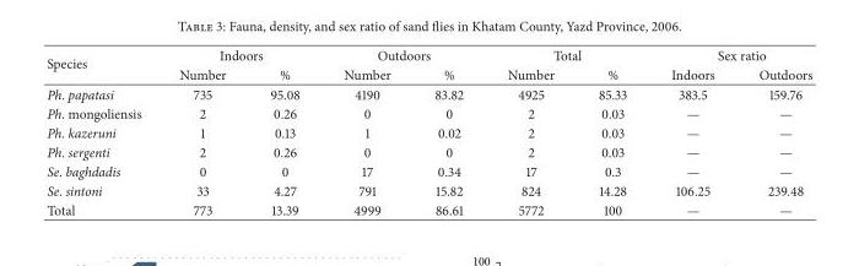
<table><thead><tr><td rowspan="2">Species</td><td colspan="2">Indoors</td><td colspan="2">Outdoors</td><td colspan="2">Total</td><td colspan="2">Sex ratio</td></tr><tr><td>Number</td><td>%</td><td>Number</td><td>%</td><td>Number</td><td>%</td><td>Indoors</td><td>Outdoors</td></tr></thead><tbody><tr><td>Ph. papatasi</td><td>735</td><td>95.08</td><td>4190</td><td>83.82</td><td>4925</td><td>85.33</td><td>383.5</td><td>159.76</td></tr><tr><td>Ph. mongoliensis</td><td>2</td><td>0.26</td><td>0</td><td>0</td><td>2</td><td>0.03</td><td>—</td><td>—</td></tr><tr><td>Ph. kazeruni</td><td>1</td><td>0.13</td><td>1</td><td>0.02</td><td>2</td><td>0.03</td><td>—</td><td>—</td></tr><tr><td>Ph. sergenti</td><td>2</td><td>0.26</td><td>0</td><td>0</td><td>2</td><td>0.03</td><td>—</td><td>—</td></tr><tr><td>Se. baghdadis</td><td>0</td><td>0</td><td>17</td><td>0.34</td><td>17</td><td>0.3</td><td>—</td><td>—</td></tr><tr><td>Se. sintoni</td><td>33</td><td>4.27</td><td>791</td><td>15.82</td><td>824</td><td>14.28</td><td>106.25</td><td>239.48</td></tr><tr><td>Total</td><td>773</td><td>13.39</td><td>4999</td><td>86.61</td><td>5772</td><td>100</td><td>—</td><td>—</td></tr></tbody></table>